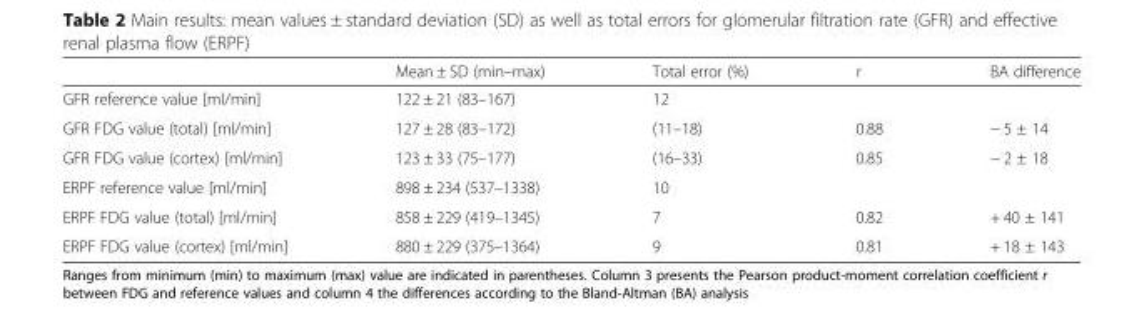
<table><thead><tr><td></td><td>Mean ± SD (min–max)</td><td>Total error (%)</td><td>r</td><td>BA difference</td></tr></thead><tbody><tr><td>GFR reference value [ml/min]</td><td>122 ± 21 (83–167)</td><td>12</td><td></td><td></td></tr><tr><td>GFR FDG value (total) [ml/min]</td><td>127 ± 28 (83–172)</td><td>(11–18)</td><td>0.88</td><td>− 5 ± 14</td></tr><tr><td>GFR FDG value (cortex) [ml/min]</td><td>123 ± 33 (75–177)</td><td>(16–33)</td><td>0.85</td><td>− 2 ± 18</td></tr><tr><td>ERPF reference value [ml/min]</td><td>898 ± 234 (537–1338)</td><td>10</td><td></td><td></td></tr><tr><td>ERPF FDG value (total) [ml/min]</td><td>858 ± 229 (419–1345)</td><td>7</td><td>0.82</td><td>+ 40 ± 141</td></tr><tr><td>ERPF FDG value (cortex) [ml/min]</td><td>880 ± 229 (375–1364)</td><td>9</td><td>0.81</td><td>+ 18 ± 143</td></tr></tbody></table>